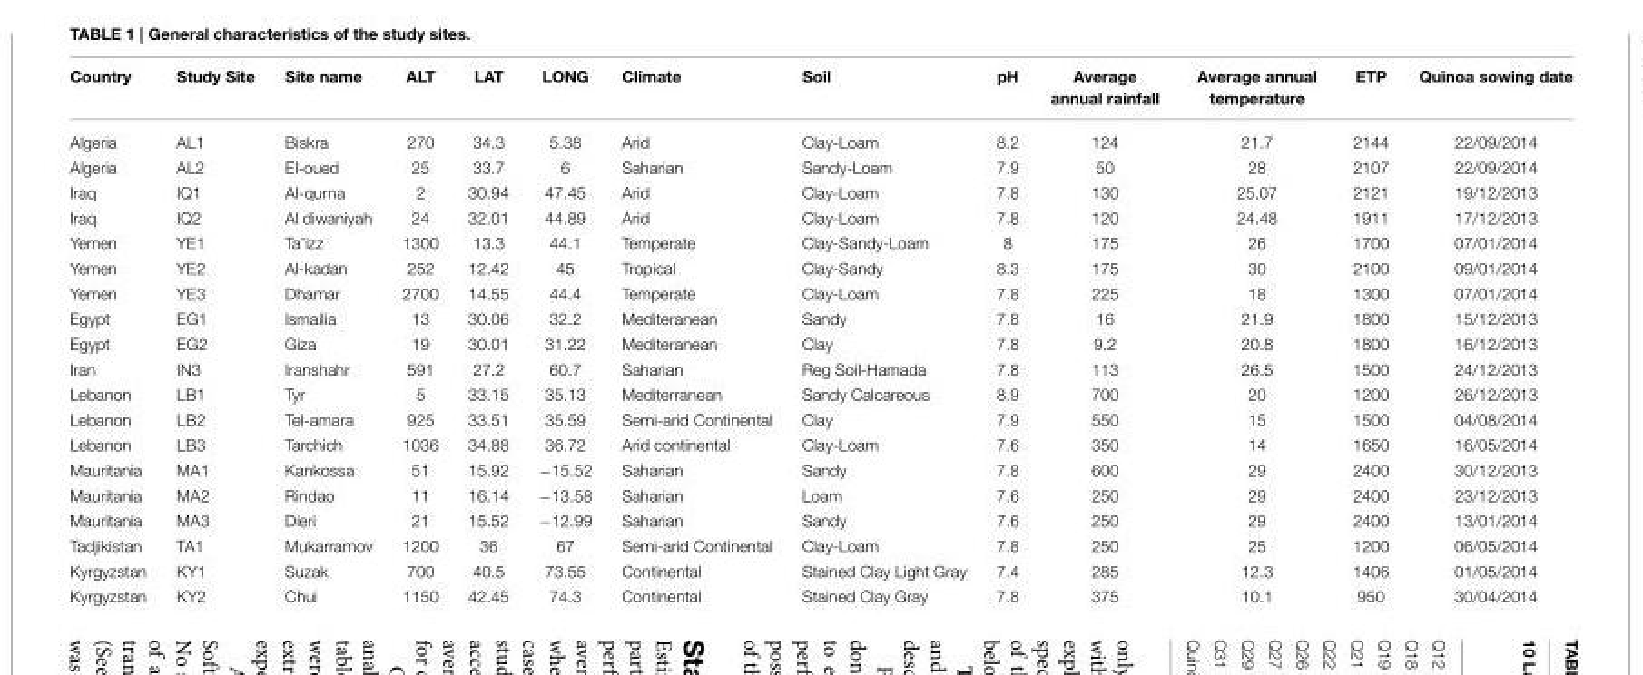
<table><thead><tr><td>Country</td><td>Study Site</td><td>Site name</td><td>ALT</td><td>LAT</td><td>LONG</td><td>Climate</td><td>Soil</td><td>pH</td><td>Average annual rainfall</td><td>Average annual temperature</td><td>ETP</td><td>Quinoa sowing date</td></tr></thead><tbody><tr><td>Algeria</td><td>AL1</td><td>Biskra</td><td>270</td><td>34.3</td><td>5.38</td><td>Arid</td><td>Clay-Loam</td><td>8.2</td><td>124</td><td>21.7</td><td>2144</td><td>22/09/2014</td></tr><tr><td>Algeria</td><td>AL2</td><td>El-oued</td><td>25</td><td>33.7</td><td>6</td><td>Saharian</td><td>Sandy-Loam</td><td>7.9</td><td>50</td><td>28</td><td>2107</td><td>22/09/2014</td></tr><tr><td>Iraq</td><td>IQ1</td><td>Al-qurna</td><td>2</td><td>30.94</td><td>47.45</td><td>Arid</td><td>Clay-Loam</td><td>7.8</td><td>130</td><td>25.07</td><td>2121</td><td>19/12/2013</td></tr><tr><td>Iraq</td><td>IQ2</td><td>Al diwaniyah</td><td>24</td><td>32.01</td><td>44.89</td><td>Arid</td><td>Clay-Loam</td><td>7.8</td><td>120</td><td>24.48</td><td>1911</td><td>17/12/2013</td></tr><tr><td>Yemen</td><td>YE1</td><td>Ta’izz</td><td>1300</td><td>13.3</td><td>44.1</td><td>Temperate</td><td>Clay-Sandy-Loam</td><td>8</td><td>175</td><td>26</td><td>1700</td><td>07/01/2014</td></tr><tr><td>Yemen</td><td>YE2</td><td>Al-kadan</td><td>252</td><td>12.42</td><td>45</td><td>Tropical</td><td>Clay-Sandy</td><td>8.3</td><td>175</td><td>30</td><td>2100</td><td>09/01/2014</td></tr><tr><td>Yemen</td><td>YE3</td><td>Dhamar</td><td>2700</td><td>14.55</td><td>44.4</td><td>Temperate</td><td>Clay-Loam</td><td>7.8</td><td>225</td><td>18</td><td>1300</td><td>07/01/2014</td></tr><tr><td>Egypt</td><td>EG1</td><td>Ismailia</td><td>13</td><td>30.06</td><td>32.2</td><td>Mediteranean</td><td>Sandy</td><td>7.8</td><td>16</td><td>21.9</td><td>1800</td><td>15/12/2013</td></tr><tr><td>Egypt</td><td>EG2</td><td>Giza</td><td>19</td><td>30.01</td><td>31.22</td><td>Mediteranean</td><td>Clay</td><td>7.8</td><td>9.2</td><td>20.8</td><td>1800</td><td>16/12/2013</td></tr><tr><td>Iran</td><td>IN3</td><td>Iranshahr</td><td>591</td><td>27.2</td><td>60.7</td><td>Saharian</td><td>Reg Soil-Hamada</td><td>7.8</td><td>113</td><td>26.5</td><td>1500</td><td>24/12/2013</td></tr><tr><td>Lebanon</td><td>LB1</td><td>Tyr</td><td>5</td><td>33.15</td><td>35.13</td><td>Mediterranean</td><td>Sandy Calcareous</td><td>8.9</td><td>700</td><td>20</td><td>1200</td><td>26/12/2013</td></tr><tr><td>Lebanon</td><td>LB2</td><td>Tel-amara</td><td>925</td><td>33.51</td><td>35.59</td><td>Semi-arid Continental</td><td>Clay</td><td>7.9</td><td>550</td><td>15</td><td>1500</td><td>04/08/2014</td></tr><tr><td>Lebanon</td><td>LB3</td><td>Tarchich</td><td>1036</td><td>34.88</td><td>36.72</td><td>Arid continental</td><td>Clay-Loam</td><td>7.6</td><td>350</td><td>14</td><td>1650</td><td>16/05/2014</td></tr><tr><td>Mauritania</td><td>MA1</td><td>Kankossa</td><td>51</td><td>15.92</td><td>−15.52</td><td>Saharian</td><td>Sandy</td><td>7.8</td><td>600</td><td>29</td><td>2400</td><td>30/12/2013</td></tr><tr><td>Mauritania</td><td>MA2</td><td>Rindao</td><td>11</td><td>16.14</td><td>−13.58</td><td>Saharian</td><td>Loam</td><td>7.6</td><td>250</td><td>29</td><td>2400</td><td>23/12/2013</td></tr><tr><td>Mauritania</td><td>MA3</td><td>Dieri</td><td>21</td><td>15.52</td><td>−12.99</td><td>Saharian</td><td>Sandy</td><td>7.6</td><td>250</td><td>29</td><td>2400</td><td>13/01/2014</td></tr><tr><td>Tadjikistan</td><td>TA1</td><td>Mukarramov</td><td>1200</td><td>36</td><td>67</td><td>Semi-arid Continental</td><td>Clay-Loam</td><td>7.8</td><td>250</td><td>25</td><td>1200</td><td>06/05/2014</td></tr><tr><td>Kyrgyzstan</td><td>KY1</td><td>Suzak</td><td>700</td><td>40.5</td><td>73.55</td><td>Continental</td><td>Stained Clay Light Gray</td><td>7.4</td><td>285</td><td>12.3</td><td>1406</td><td>01/05/2014</td></tr><tr><td>Kyrgyzstan</td><td>KY2</td><td>Chui</td><td>1150</td><td>42.45</td><td>74.3</td><td>Continental</td><td>Stained Clay Gray</td><td>7.8</td><td>375</td><td>10.1</td><td>950</td><td>30/04/2014</td></tr></tbody></table>